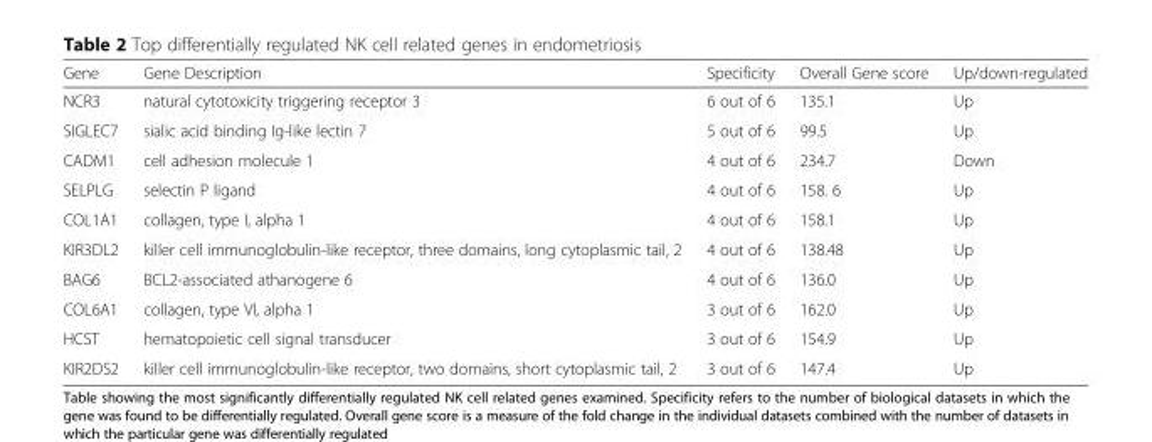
<table><thead><tr><td>Gene</td><td>Gene Description</td><td>Specificity</td><td>Overall Gene score</td><td>Up/down-regulated</td></tr></thead><tbody><tr><td>NCR3</td><td>natural cytotoxicity triggering receptor 3</td><td>6 out of 6</td><td>135.1</td><td>Up</td></tr><tr><td>SIGLEC7</td><td>sialic acid binding Ig-like lectin 7</td><td>5 out of 6</td><td>99.5</td><td>Up</td></tr><tr><td>CADM1</td><td>cell adhesion molecule 1</td><td>4 out of 6</td><td>234.7</td><td>Down</td></tr><tr><td>SELPLG</td><td>selectin P ligand</td><td>4 out of 6</td><td>158. 6</td><td>Up</td></tr><tr><td>COL1A1</td><td>collagen, type I, alpha 1</td><td>4 out of 6</td><td>158.1</td><td>Up</td></tr><tr><td>KIR3DL2</td><td>killer cell immunoglobulin-like receptor, three domains, long cytoplasmic tail, 2</td><td>4 out of 6</td><td>138.48</td><td>Up</td></tr><tr><td>BAG6</td><td>BCL2-associated athanogene 6</td><td>4 out of 6</td><td>136.0</td><td>Up</td></tr><tr><td>COL6A1</td><td>collagen, type VI, alpha 1</td><td>3 out of 6</td><td>162.0</td><td>Up</td></tr><tr><td>HCST</td><td>hematopoietic cell signal transducer</td><td>3 out of 6</td><td>154.9</td><td>Up</td></tr><tr><td>KIR2DS2</td><td>killer cell immunoglobulin-like receptor, two domains, short cytoplasmic tail, 2</td><td>3 out of 6</td><td>147.4</td><td>Up</td></tr></tbody></table>